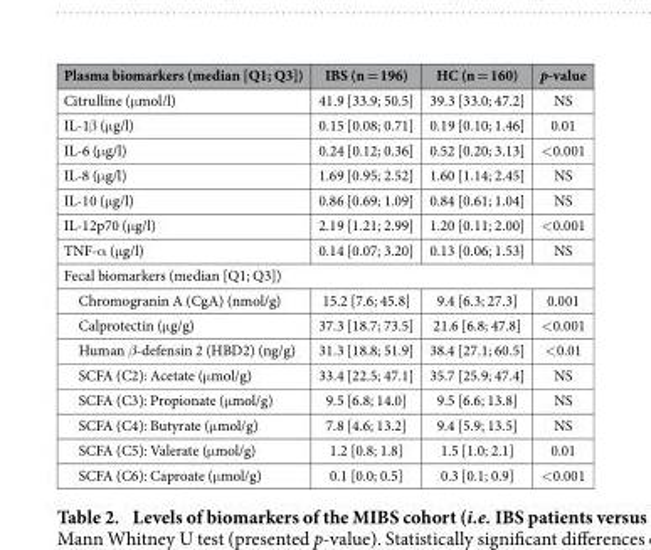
<table><thead><tr><td>Plasma biomarkers (median [Q1; Q3])</td><td>IBS (n = 196)</td><td>HC (n = 160)</td><td>p-value</td></tr></thead><tbody><tr><td>Citrulline (μ mol/l)</td><td>41.9 [33.9; 50.5]</td><td>39.3 [33.0; 47.2]</td><td>NS</td></tr><tr><td>IL-1β (μ g/l)</td><td>0.15 [0.08; 0.71]</td><td>0.19 [0.10; 1.46]</td><td>0.01</td></tr><tr><td>IL-6 (μ g/l)</td><td>0.24 [0.12; 0.36]</td><td>0.52 [0.20; 3.13]</td><td>&lt; 0.001</td></tr><tr><td>IL-8 (μ g/l)</td><td>1.69 [0.95; 2.52]</td><td>1.60 [1.14; 2.45]</td><td>NS</td></tr><tr><td>IL-10 (μ g/l)</td><td>0.86 [0.69; 1.09]</td><td>0.84 [0.61; 1.04]</td><td>NS</td></tr><tr><td>IL-12p70 (μ g/l)</td><td>2.19 [1.21; 2.99]</td><td>1.20 [0.11; 2.00]</td><td>&lt; 0.001</td></tr><tr><td>TNF-α (μ g/l)</td><td>0.14 [0.07; 3.20]</td><td>0.13 [0.06; 1.53]</td><td>NS</td></tr><tr><td colspan="4">Fecal biomarkers (median [Q1; Q3])</td></tr><tr><td>Chromogranin A (CgA) (nmol/g)</td><td>15.2 [7.6; 45.8]</td><td>9.4 [6.3; 27.3]</td><td>0.001</td></tr><tr><td>Calprotectin (μ g/g)</td><td>37.3 [18.7; 73.5]</td><td>21.6 [6.8; 47.8]</td><td>&lt; 0.001</td></tr><tr><td>Human β-defensin 2 (HBD2) (ng/g)</td><td>31.3 [18.8; 51.9]</td><td>38.4 [27.1; 60.5]</td><td>&lt; 0.01</td></tr><tr><td>SCFA (C2): Acetate (μ mol/g)</td><td>33.4 [22.5; 47.1]</td><td>35.7 [25.9; 47.4]</td><td>NS</td></tr><tr><td>SCFA (C3): Propionate (μ mol/g)</td><td>9.5 [6.8; 14.0]</td><td>9.5 [6.6; 13.8]</td><td>NS</td></tr><tr><td>SCFA (C4): Butyrate (μ mol/g)</td><td>7.8 [4.6; 13.2]</td><td>9.4 [5.9; 13.5]</td><td>NS</td></tr><tr><td>SCFA (C5): Valerate (μ mol/g)</td><td>1.2 [0.8; 1.8]</td><td>1.5 [1.0; 2.1]</td><td>0.01</td></tr><tr><td>SCFA (C6): Caproate (μ mol/g)</td><td>0.1 [0.0; 0.5]</td><td>0.3 [0.1; 0.9]</td><td>&lt; 0.001</td></tr></tbody></table>